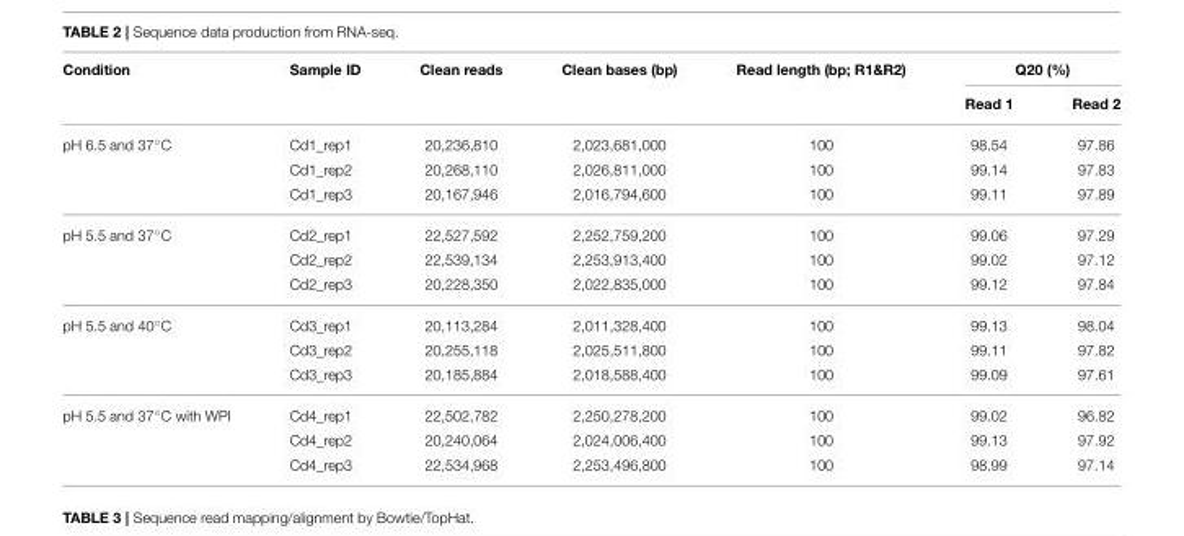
<table><thead><tr><td rowspan="2">Condition</td><td rowspan="2">Sample ID</td><td rowspan="2">Clean reads</td><td rowspan="2">Clean bases (bp)</td><td rowspan="2">Read length (bp; R1&amp;R2)</td><td colspan="2">Q20 (%)</td></tr><tr><td>Read 1</td><td>Read 2</td></tr></thead><tbody><tr><td rowspan="3">pH 6.5 and 37◦C</td><td>Cd1_rep1</td><td>20,236,810</td><td>2,023,681,000</td><td>100</td><td>98.54</td><td>97.86</td></tr><tr><td>Cd1_rep2</td><td>20,268,110</td><td>2,026,811,000</td><td>100</td><td>99.14</td><td>97.83</td></tr><tr><td>Cd1_rep3</td><td>20,167,946</td><td>2,016,794,600</td><td>100</td><td>99.11</td><td>97.89</td></tr><tr><td rowspan="3">pH 5.5 and 37◦C</td><td>Cd2_rep1</td><td>22,527,592</td><td>2,252,759,200</td><td>100</td><td>99.06</td><td>97.29</td></tr><tr><td>Cd2_rep2</td><td>22,539,134</td><td>2,253,913,400</td><td>100</td><td>99.02</td><td>97.12</td></tr><tr><td>Cd2_rep3</td><td>20,228,350</td><td>2,022,835,000</td><td>100</td><td>99.12</td><td>97.84</td></tr><tr><td rowspan="3">pH 5.5 and 40◦C</td><td>Cd3_rep1</td><td>20,113,284</td><td>2,011,328,400</td><td>100</td><td>99.13</td><td>98.04</td></tr><tr><td>Cd3_rep2</td><td>20,255,118</td><td>2,025,511,800</td><td>100</td><td>99.11</td><td>97.82</td></tr><tr><td>Cd3_rep3</td><td>20,185,884</td><td>2,018,588,400</td><td>100</td><td>99.09</td><td>97.61</td></tr><tr><td rowspan="3">pH 5.5 and 37◦C with WPI</td><td>Cd4_rep1</td><td>22,502,782</td><td>2,250,278,200</td><td>100</td><td>99.02</td><td>96.82</td></tr><tr><td>Cd4_rep2</td><td>20,240,064</td><td>2,024,006,400</td><td>100</td><td>99.13</td><td>97.92</td></tr><tr><td>Cd4_rep3</td><td>22,534,968</td><td>2,253,496,800</td><td>100</td><td>98.99</td><td>97.14</td></tr></tbody></table>